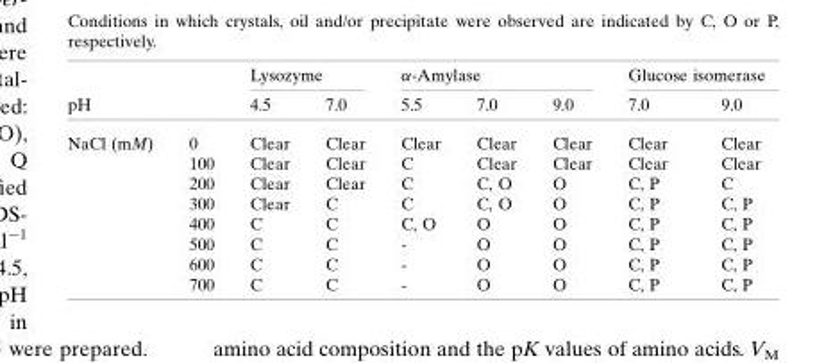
<table><thead><tr><td rowspan="2">pH</td><td rowspan="2"></td><td colspan="2">Lysozyme</td><td colspan="3">�-Amylase</td><td colspan="2">Glucose isomerase</td></tr><tr><td>4.5</td><td>7.0</td><td>5.5</td><td>7.0</td><td>9.0</td><td>7.0</td><td>9.0</td></tr></thead><tbody><tr><td rowspan="8">NaCl (mM)</td><td>0</td><td>Clear</td><td>Clear</td><td>Clear</td><td>Clear</td><td>Clear</td><td>Clear</td><td>Clear</td></tr><tr><td>100</td><td>Clear</td><td>Clear</td><td>C</td><td>Clear</td><td>Clear</td><td>Clear</td><td>Clear</td></tr><tr><td>200</td><td>Clear</td><td>Clear</td><td>C</td><td>C, O</td><td>O</td><td>C, P</td><td>C</td></tr><tr><td>300</td><td>Clear</td><td>C</td><td>C</td><td>C, O</td><td>O</td><td>C, P</td><td>C, P</td></tr><tr><td>400</td><td>C</td><td>C</td><td>C, O</td><td>O</td><td>O</td><td>C, P</td><td>C, P</td></tr><tr><td>500</td><td>C</td><td>C</td><td>-</td><td>O</td><td>O</td><td>C, P</td><td>C, P</td></tr><tr><td>600</td><td>C</td><td>C</td><td>-</td><td>O</td><td>O</td><td>C, P</td><td>C, P</td></tr><tr><td>700</td><td>C</td><td>C</td><td>-</td><td>O</td><td>O</td><td>C, P</td><td>C, P</td></tr></tbody></table>